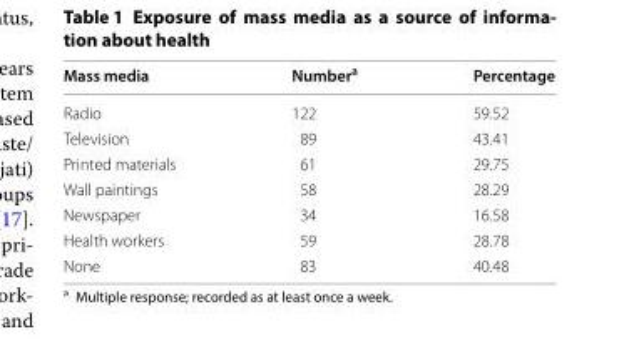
<table><thead><tr><td>Mass media</td><td>Number<sup>a</sup></td><td>Percentage</td></tr></thead><tbody><tr><td>Radio</td><td>122</td><td>59.52</td></tr><tr><td>Television</td><td>89</td><td>43.41</td></tr><tr><td>Printed materials</td><td>61</td><td>29.75</td></tr><tr><td>Wall paintings</td><td>58</td><td>28.29</td></tr><tr><td>Newspaper</td><td>34</td><td>16.58</td></tr><tr><td>Health workers</td><td>59</td><td>28.78</td></tr><tr><td>None</td><td>83</td><td>40.48</td></tr></tbody></table>